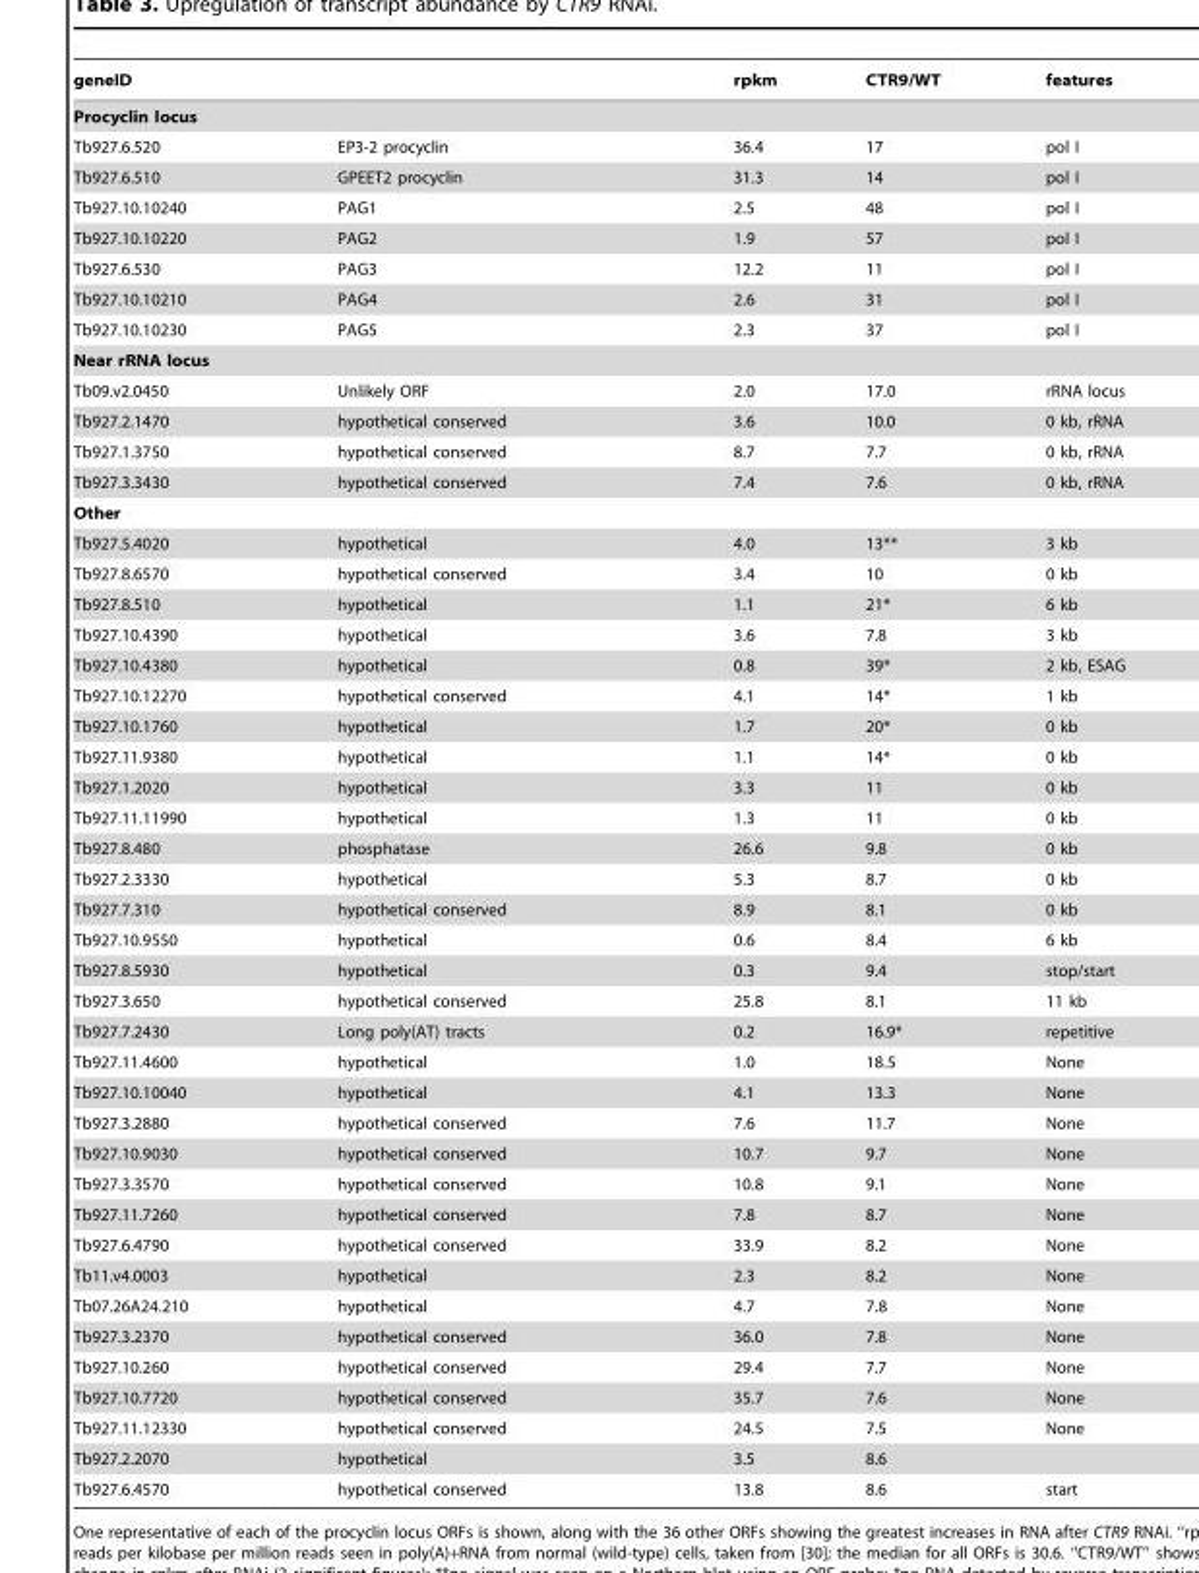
<table><thead><tr><td>geneID</td><td></td><td>rpkm</td><td>CTR9/WT</td><td>features</td></tr></thead><tbody><tr><td colspan="5">Procyclin locus</td></tr><tr><td>Tb927.6.520</td><td>EP3-2 procyclin</td><td>36.4</td><td>17</td><td>pol I</td></tr><tr><td>Tb927.6.510</td><td>GPEET2 procyclin</td><td>31.3</td><td>14</td><td>pol I</td></tr><tr><td>Tb927.10.10240</td><td>PAG1</td><td>2.5</td><td>48</td><td>pol I</td></tr><tr><td>Tb927.10.10220</td><td>PAG2</td><td>1.9</td><td>57</td><td>pol I</td></tr><tr><td>Tb927.6.530</td><td>PAG3</td><td>12.2</td><td>11</td><td>pol I</td></tr><tr><td>Tb927.10.10210</td><td>PAG4</td><td>2.6</td><td>31</td><td>pol I</td></tr><tr><td>Tb927.10.10230</td><td>PAG5</td><td>2.3</td><td>37</td><td>pol I</td></tr><tr><td colspan="5">Near rRNA locus</td></tr><tr><td>Tb09.v2.0450</td><td>Unlikely ORF</td><td>2.0</td><td>17.0</td><td>rRNA locus</td></tr><tr><td>Tb927.2.1470</td><td>hypothetical conserved</td><td>3.6</td><td>10.0</td><td>0 kb, rRNA</td></tr><tr><td>Tb927.1.3750</td><td>hypothetical conserved</td><td>8.7</td><td>7.7</td><td>0 kb, rRNA</td></tr><tr><td>Tb927.3.3430</td><td>hypothetical conserved</td><td>7.4</td><td>7.6</td><td>0 kb, rRNA</td></tr><tr><td colspan="5">Other</td></tr><tr><td>Tb927.5.4020</td><td>hypothetical</td><td>4.0</td><td>13**</td><td>3 kb</td></tr><tr><td>Tb927.8.6570</td><td>hypothetical conserved</td><td>3.4</td><td>10</td><td>0 kb</td></tr><tr><td>Tb927.8.510</td><td>hypothetical</td><td>1.1</td><td>21*</td><td>6 kb</td></tr><tr><td>Tb927.10.4390</td><td>hypothetical</td><td>3.6</td><td>7.8</td><td>3 kb</td></tr><tr><td>Tb927.10.4380</td><td>hypothetical</td><td>0.8</td><td>39*</td><td>2 kb, ESAG</td></tr><tr><td>Tb927.10.12270</td><td>hypothetical conserved</td><td>4.1</td><td>14*</td><td>1 kb</td></tr><tr><td>Tb927.10.1760</td><td>hypothetical</td><td>1.7</td><td>20*</td><td>0 kb</td></tr><tr><td>Tb927.11.9380</td><td>hypothetical</td><td>1.1</td><td>14*</td><td>0 kb</td></tr><tr><td>Tb927.1.2020</td><td>hypothetical</td><td>3.3</td><td>11</td><td>0 kb</td></tr><tr><td>Tb927.11.11990</td><td>hypothetical</td><td>1.3</td><td>11</td><td>0 kb</td></tr><tr><td>Tb927.8.480</td><td>phosphatase</td><td>26.6</td><td>9.8</td><td>0 kb</td></tr><tr><td>Tb927.2.3330</td><td>hypothetical</td><td>5.3</td><td>8.7</td><td>0 kb</td></tr><tr><td>Tb927.7.310</td><td>hypothetical conserved</td><td>8.9</td><td>8.1</td><td>0 kb</td></tr><tr><td>Tb927.10.9550</td><td>hypothetical</td><td>0.6</td><td>8.4</td><td>6 kb</td></tr><tr><td>Tb927.8.5930</td><td>hypothetical</td><td>0.3</td><td>9.4</td><td>stop/start</td></tr><tr><td>Tb927.3.650</td><td>hypothetical conserved</td><td>25.8</td><td>8.1</td><td>11 kb</td></tr><tr><td>Tb927.7.2430</td><td>Long poly(AT) tracts</td><td>0.2</td><td>16.9*</td><td>repetitive</td></tr><tr><td>Tb927.11.4600</td><td>hypothetical</td><td>1.0</td><td>18.5</td><td>None</td></tr><tr><td>Tb927.10.10040</td><td>hypothetical</td><td>4.1</td><td>13.3</td><td>None</td></tr><tr><td>Tb927.3.2880</td><td>hypothetical conserved</td><td>7.6</td><td>11.7</td><td>None</td></tr><tr><td>Tb927.10.9030</td><td>hypothetical conserved</td><td>10.7</td><td>9.7</td><td>None</td></tr><tr><td>Tb927.3.3570</td><td>hypothetical conserved</td><td>10.8</td><td>9.1</td><td>None</td></tr><tr><td>Tb927.11.7260</td><td>hypothetical conserved</td><td>7.8</td><td>8.7</td><td>None</td></tr><tr><td>Tb927.6.4790</td><td>hypothetical conserved</td><td>33.9</td><td>8.2</td><td>None</td></tr><tr><td>Tb11.v4.0003</td><td>hypothetical</td><td>2.3</td><td>8.2</td><td>None</td></tr><tr><td>Tb07.26A24.210</td><td>hypothetical</td><td>4.7</td><td>7.8</td><td>None</td></tr><tr><td>Tb927.3.2370</td><td>hypothetical conserved</td><td>36.0</td><td>7.8</td><td>None</td></tr><tr><td>Tb927.10.260</td><td>hypothetical conserved</td><td>29.4</td><td>7.7</td><td>None</td></tr><tr><td>Tb927.10.7720</td><td>hypothetical conserved</td><td>35.7</td><td>7.6</td><td>None</td></tr><tr><td>Tb927.11.12330</td><td>hypothetical conserved</td><td>24.5</td><td>7.5</td><td>None</td></tr><tr><td>Tb927.2.2070</td><td>hypothetical</td><td>3.5</td><td>8.6</td><td></td></tr><tr><td>Tb927.6.4570</td><td>hypothetical conserved</td><td>13.8</td><td>8.6</td><td>start</td></tr></tbody></table>